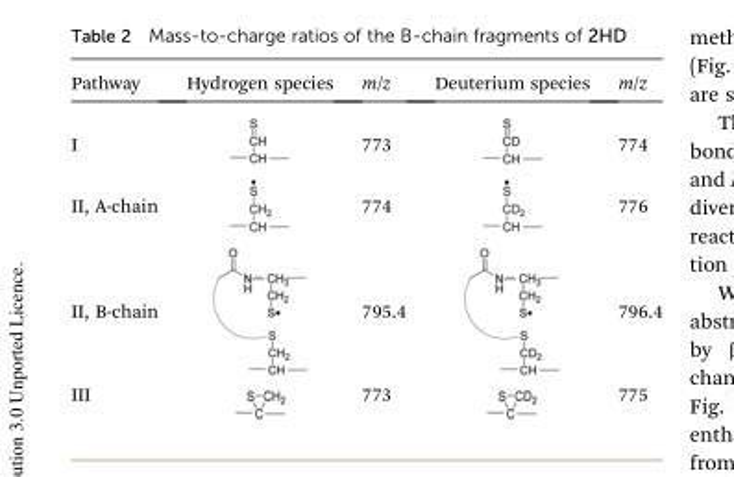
<table><thead><tr><td>Pathway</td><td>Hydrogen species</td><td>m/z</td><td>Deuterium species</td><td>m/z</td></tr></thead><tbody><tr><td>I</td><td></td><td>773</td><td></td><td>774</td></tr><tr><td>II, A-chain</td><td></td><td>774</td><td></td><td>776</td></tr><tr><td>II, B-chain</td><td></td><td>795.4</td><td></td><td>796.4</td></tr><tr><td>III</td><td></td><td>773</td><td></td><td>775</td></tr></tbody></table>